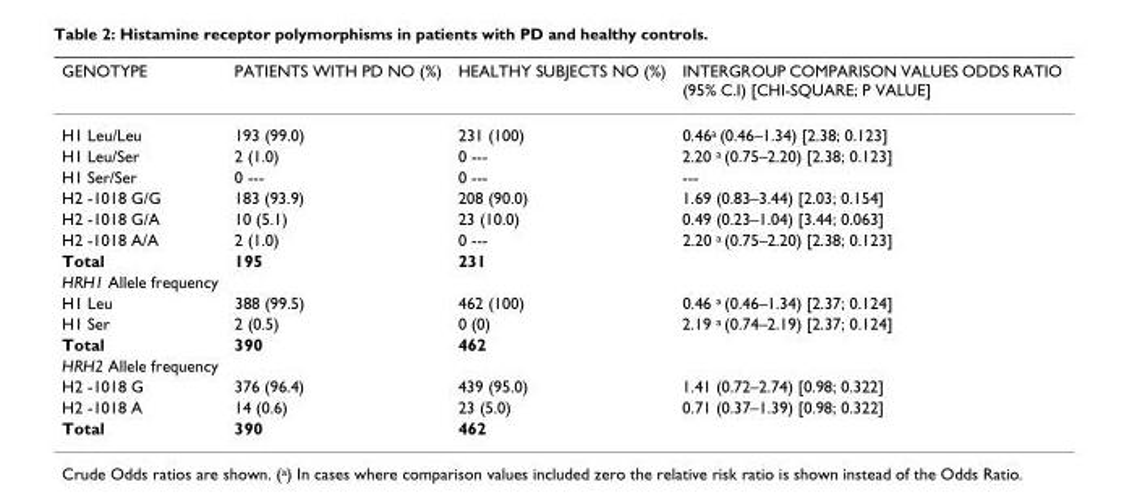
<table><thead><tr><td>GENOTYPE</td><td>PATIENTS WITH PD NO (%)</td><td>HEALTHY SUBJECTS NO (%)</td><td>INTERGROUP COMPARISON VALUES ODDS RATIO (95% C.I) [CHI-SQUARE; P VALUE]</td></tr></thead><tbody><tr><td>H1 Leu/Leu</td><td>193 (99.0)</td><td>231 (100)</td><td>0.46<sup>a</sup> (0.46–1.34) [2.38; 0.123]</td></tr><tr><td>H1 Leu/Ser</td><td>2 (1.0)</td><td>0 ---</td><td>2.20 <sup>a</sup> (0.75–2.20) [2.38; 0.123]</td></tr><tr><td>H1 Ser/Ser</td><td>0 ---</td><td>0 ---</td><td>---</td></tr><tr><td>H2 -1018 G/G</td><td>183 (93.9)</td><td>208 (90.0)</td><td>1.69 (0.83–3.44) [2.03; 0.154]</td></tr><tr><td>H2 -1018 G/A</td><td>10 (5.1)</td><td>23 (10.0)</td><td>0.49 (0.23–1.04) [3.44; 0.063]</td></tr><tr><td>H2 -1018 A/A</td><td>2 (1.0)</td><td>0 ---</td><td>2.20 <sup>a</sup> (0.75–2.20) [2.38; 0.123]</td></tr><tr><td>Total</td><td>195</td><td>231</td><td></td></tr><tr><td colspan="4">HRH1 Allele frequency</td></tr><tr><td>H1 Leu</td><td>388 (99.5)</td><td>462 (100)</td><td>0.46 <sup>a</sup> (0.46–1.34) [2.37; 0.124]</td></tr><tr><td>H1 Ser</td><td>2 (0.5)</td><td>0 (0)</td><td>2.19 <sup>a</sup> (0.74–2.19) [2.37; 0.124]</td></tr><tr><td>Total</td><td>390</td><td>462</td><td></td></tr><tr><td colspan="4">HRH2 Allele frequency</td></tr><tr><td>H2 -1018 G</td><td>376 (96.4)</td><td>439 (95.0)</td><td>1.41 (0.72–2.74) [0.98; 0.322]</td></tr><tr><td>H2 -1018 A</td><td>14 (0.6)</td><td>23 (5.0)</td><td>0.71 (0.37–1.39) [0.98; 0.322]</td></tr><tr><td>Total</td><td>390</td><td>462</td><td></td></tr></tbody></table>